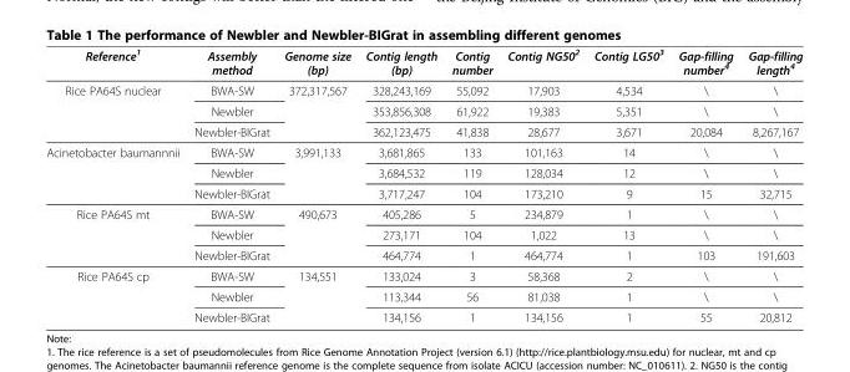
<table><thead><tr><td>Reference<sup>1</sup></td><td>Assembly method</td><td>Genome size (bp)</td><td>Contig length (bp)</td><td>Contig number</td><td>Contig NG50<sup>2</sup></td><td>Contig LG50<sup>3</sup></td><td>Gap-filling number<sup>4</sup></td><td>Gap-filling length<sup>4</sup></td></tr></thead><tbody><tr><td rowspan="3">Rice PA64S nuclear</td><td>BWA-SW</td><td>372,317,567</td><td>328,243,169</td><td>55,092</td><td>17,903</td><td>4,534</td><td>\</td><td>\</td></tr><tr><td>Newbler</td><td></td><td>353,856,308</td><td>61,922</td><td>19,383</td><td>5,351</td><td>\</td><td>\</td></tr><tr><td>Newbler-BIGrat</td><td></td><td>362,123,475</td><td>41,838</td><td>28,677</td><td>3,671</td><td>20,084</td><td>8,267,167</td></tr><tr><td rowspan="3">Acinetobacter baumannnii</td><td>BWA-SW</td><td>3,991,133</td><td>3,681,865</td><td>133</td><td>101,163</td><td>14</td><td>\</td><td>\</td></tr><tr><td>Newbler</td><td></td><td>3,684,532</td><td>119</td><td>128,034</td><td>12</td><td>\</td><td>\</td></tr><tr><td>Newbler-BIGrat</td><td></td><td>3,717,247</td><td>104</td><td>173,210</td><td>9</td><td>15</td><td>32,715</td></tr><tr><td rowspan="3">Rice PA64S mt</td><td>BWA-SW</td><td>490,673</td><td>405,286</td><td>5</td><td>234,879</td><td>1</td><td>\</td><td>\</td></tr><tr><td>Newbler</td><td></td><td>273,171</td><td>104</td><td>1,022</td><td>13</td><td>\</td><td>\</td></tr><tr><td>Newbler-BIGrat</td><td></td><td>464,774</td><td>1</td><td>464,774</td><td>1</td><td>103</td><td>191,603</td></tr><tr><td rowspan="3">Rice PA64S cp</td><td>BWA-SW</td><td>134,551</td><td>133,024</td><td>3</td><td>58,368</td><td>2</td><td>\</td><td>\</td></tr><tr><td>Newbler</td><td></td><td>113,344</td><td>56</td><td>81,038</td><td>1</td><td>\</td><td>\</td></tr><tr><td>Newbler-BIGrat</td><td></td><td>134,156</td><td>1</td><td>134,156</td><td>1</td><td>55</td><td>20,812</td></tr></tbody></table>